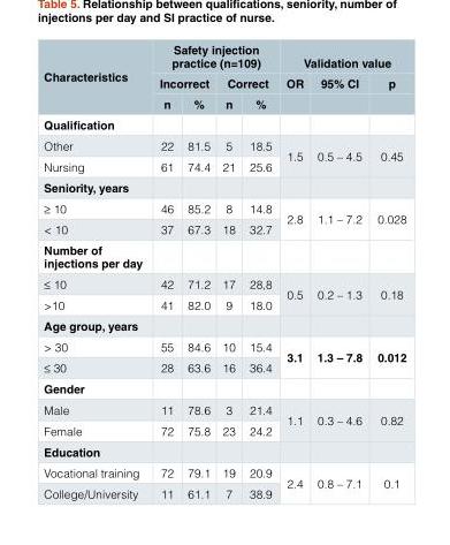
<table><thead><tr><td rowspan="3">Characteristics</td><td colspan="4">Safety injection practice (n=109)</td><td colspan="3">Validation value</td></tr><tr><td colspan="2">Incorrect</td><td colspan="2">Correct</td><td rowspan="2">OR</td><td rowspan="2">95% CI</td><td rowspan="2">p</td></tr><tr><td>n</td><td>%</td><td>n</td><td>%</td></tr></thead><tbody><tr><td colspan="8">Qualification</td></tr><tr><td>Other</td><td>22</td><td>81.5</td><td>5</td><td>18.5</td><td rowspan="2">1.5</td><td rowspan="2">0.5 – 4.5</td><td rowspan="2">0.45</td></tr><tr><td>Nursing</td><td>61</td><td>74.4</td><td>21</td><td>25.6</td></tr><tr><td colspan="8">Seniority, years</td></tr><tr><td>≥ 10</td><td>46</td><td>85.2</td><td>8</td><td>14.8</td><td rowspan="2">2.8</td><td rowspan="2">1.1 – 7.2</td><td rowspan="2">0.028</td></tr><tr><td>&lt; 10</td><td>37</td><td>67.3</td><td>18</td><td>32.7</td></tr><tr><td colspan="8">Number of injections per day</td></tr><tr><td>≤ 10</td><td>42</td><td>71.2</td><td>17</td><td>28,8</td><td rowspan="2">0.5</td><td rowspan="2">0.2 – 1.3</td><td rowspan="2">0.18</td></tr><tr><td>&gt;10</td><td>41</td><td>82.0</td><td>9</td><td>18.0</td></tr><tr><td colspan="8">Age group, years</td></tr><tr><td>&gt; 30</td><td>55</td><td>84.6</td><td>10</td><td>15.4</td><td rowspan="2">3.1</td><td rowspan="2">1.3 – 7.8</td><td rowspan="2">0.012</td></tr><tr><td>≤ 30</td><td>28</td><td>63.6</td><td>16</td><td>36.4</td></tr><tr><td colspan="8">Gender</td></tr><tr><td>Male</td><td>11</td><td>78.6</td><td>3</td><td>21.4</td><td rowspan="2">1.1</td><td rowspan="2">0.3 – 4.6</td><td rowspan="2">0.82</td></tr><tr><td>Female</td><td>72</td><td>75.8</td><td>23</td><td>24.2</td></tr><tr><td colspan="8">Education</td></tr><tr><td>Vocational training</td><td>72</td><td>79.1</td><td>19</td><td>20.9</td><td rowspan="2">2.4</td><td rowspan="2">0.8 – 7.1</td><td rowspan="2">0.1</td></tr><tr><td>College/University</td><td>11</td><td>61.1</td><td>7</td><td>38.9</td></tr></tbody></table>